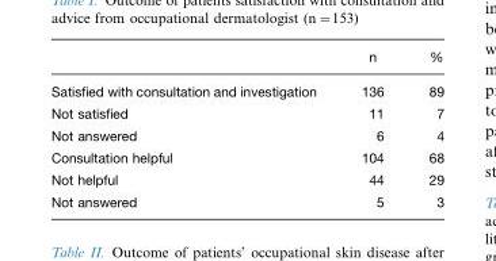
<table><thead><tr><td></td><td>n</td><td>%</td></tr></thead><tbody><tr><td>Satisfied with consultation and investigation</td><td>136</td><td>89</td></tr><tr><td>Not satisfied</td><td>11</td><td>7</td></tr><tr><td>Not answered</td><td>6</td><td>4</td></tr><tr><td>Consultation helpful</td><td>104</td><td>68</td></tr><tr><td>Not helpful</td><td>44</td><td>29</td></tr><tr><td>Not answered</td><td>5</td><td>3</td></tr></tbody></table>